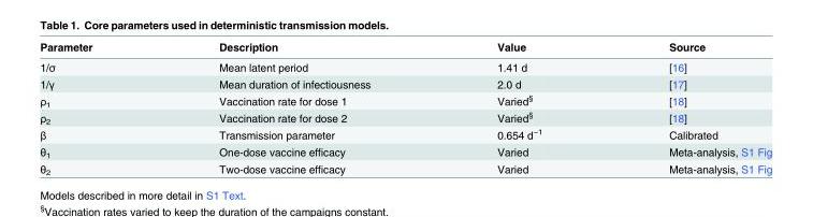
<table><thead><tr><td>Parameter</td><td>Description</td><td>Value</td><td>Source</td></tr></thead><tbody><tr><td>1/σ</td><td>Mean latent period</td><td>1.41 d</td><td>[16]</td></tr><tr><td>1/γ</td><td>Mean duration of infectiousness</td><td>2.0 d</td><td>[17]</td></tr><tr><td>ρ<sub>1</sub></td><td>Vaccination rate for dose 1</td><td>Varied<sup>§</sup></td><td>[18]</td></tr><tr><td>ρ<sub>2</sub></td><td>Vaccination rate for dose 2</td><td>Varied<sup>§</sup></td><td>[18]</td></tr><tr><td>β</td><td>Transmission parameter</td><td>0.654 d<sup>−1</sup></td><td>Calibrated</td></tr><tr><td>θ<sub>1</sub></td><td>One-dose vaccine efficacy</td><td>Varied</td><td>Meta-analysis, S1 Fig</td></tr><tr><td>θ<sub>2</sub></td><td>Two-dose vaccine efficacy</td><td>Varied</td><td>Meta-analysis, S1 Fig</td></tr></tbody></table>